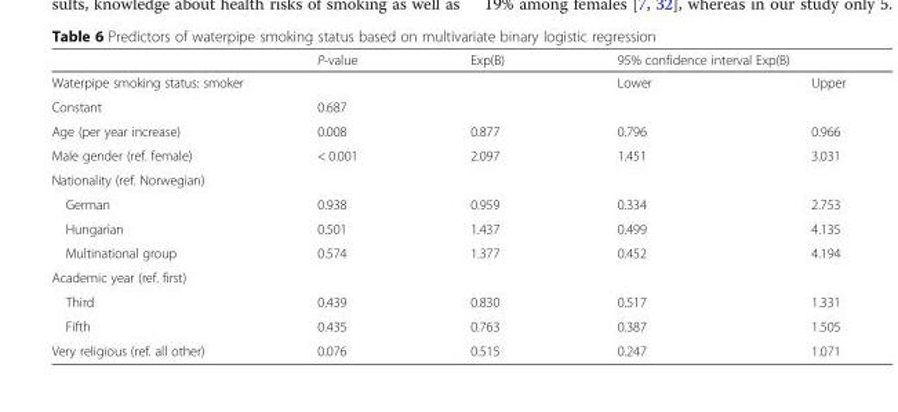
<table><thead><tr><td></td><td>P-value</td><td rowspan="2">Exp(B)</td><td colspan="2">95% confidence interval Exp(B)</td></tr><tr><td colspan="2">Waterpipe smoking status: smoker</td><td>Lower</td><td>Upper</td></tr></thead><tbody><tr><td>Constant</td><td>0.687</td><td></td><td></td><td></td></tr><tr><td>Age (per year increase)</td><td>0.008</td><td>0.877</td><td>0.796</td><td>0.966</td></tr><tr><td>Male gender (ref. female)</td><td>&lt; 0.001</td><td>2.097</td><td>1.451</td><td>3.031</td></tr><tr><td colspan="5">Nationality (ref. Norwegian)</td></tr><tr><td>German</td><td>0.938</td><td>0.959</td><td>0.334</td><td>2.753</td></tr><tr><td>Hungarian</td><td>0.501</td><td>1.437</td><td>0.499</td><td>4.135</td></tr><tr><td>Multinational group</td><td>0.574</td><td>1.377</td><td>0.452</td><td>4.194</td></tr><tr><td colspan="5">Academic year (ref. first)</td></tr><tr><td>Third</td><td>0.439</td><td>0.830</td><td>0.517</td><td>1.331</td></tr><tr><td>Fifth</td><td>0.435</td><td>0.763</td><td>0.387</td><td>1.505</td></tr><tr><td>Very religious (ref. all other)</td><td>0.076</td><td>0.515</td><td>0.247</td><td>1.071</td></tr></tbody></table>